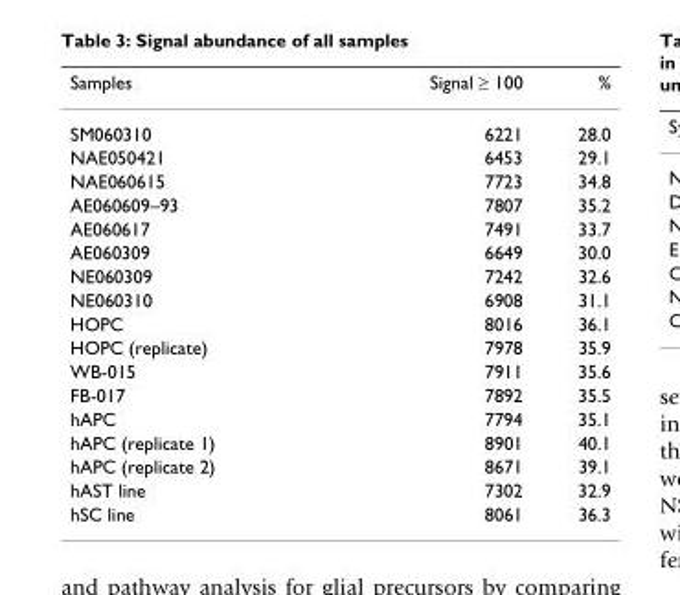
<table><thead><tr><td>Samples</td><td>Signal ≥ 100</td><td>%</td></tr></thead><tbody><tr><td>SM060310</td><td>6221</td><td>28.0</td></tr><tr><td>NAE050421</td><td>6453</td><td>29.1</td></tr><tr><td>NAE060615</td><td>7723</td><td>34.8</td></tr><tr><td>AE060609–93</td><td>7807</td><td>35.2</td></tr><tr><td>AE060617</td><td>7491</td><td>33.7</td></tr><tr><td>AE060309</td><td>6649</td><td>30.0</td></tr><tr><td>NE060309</td><td>7242</td><td>32.6</td></tr><tr><td>NE060310</td><td>6908</td><td>31.1</td></tr><tr><td>HOPC</td><td>8016</td><td>36.1</td></tr><tr><td>HOPC (replicate)</td><td>7978</td><td>35.9</td></tr><tr><td>WB-015</td><td>7911</td><td>35.6</td></tr><tr><td>FB-017</td><td>7892</td><td>35.5</td></tr><tr><td>hAPC</td><td>7794</td><td>35.1</td></tr><tr><td>hAPC (replicate 1)</td><td>8901</td><td>40.1</td></tr><tr><td>hAPC (replicate 2)</td><td>8671</td><td>39.1</td></tr><tr><td>hAST line</td><td>7302</td><td>32.9</td></tr><tr><td>hSC line</td><td>8061</td><td>36.3</td></tr></tbody></table>